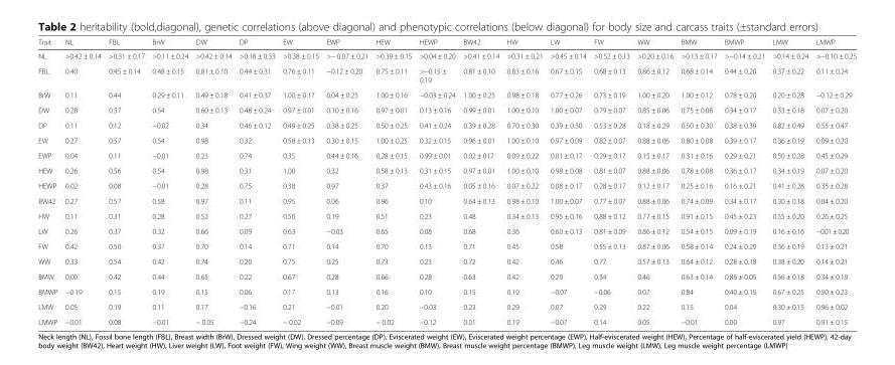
<table><thead><tr><td>Trait</td><td>NL</td><td>FBL</td><td>BrW</td><td>DW</td><td>DP</td><td>EW</td><td>EWP</td><td>HEW</td><td>HEWP</td><td>BW42</td><td>HW</td><td>LW</td><td>FW</td><td>WW</td><td>BMW</td><td>BMWP</td><td>LMW</td><td>LMWP</td></tr></thead><tbody><tr><td>NL</td><td>&gt;0.42 ± 0.14</td><td>&gt;0.31 ± 0.17</td><td>&gt;0.11 ± 0.24</td><td>&gt;0.42 ± 0.14</td><td>&gt;0.18 ± 0.33</td><td>&gt;0.38 ± 0.15</td><td>&gt;− 0.07 ± 0.21</td><td>&gt;0.39 ± 0.15</td><td>&gt;0.04 ± 0.20</td><td>&gt;0.41 ± 0.14</td><td>&gt;0.31 ± 0.21</td><td>&gt;0.45 ± 0.14</td><td>&gt;0.52 ± 0.13</td><td>&gt;0.20 ± 0.16</td><td>&gt;0.13 ± 0.17</td><td>&gt;−0.14 ± 0.21</td><td>&gt;0.14 ± 0.24</td><td>&gt;−0.10 ± 0.25</td></tr><tr><td>FBL</td><td>0.40</td><td>0.45 ± 0.14</td><td>0.48 ± 0.15</td><td>0.81 ± 0.10</td><td>0.44 ± 0.31</td><td>0.76 ± 0.11</td><td>−0.12 ± 0.20</td><td>0.75 ± 0.11</td><td>&gt;−0.15 ± 0.19</td><td>0.81 ± 0.10</td><td>0.83 ± 0.16</td><td>0.67 ± 0.15</td><td>0.68 ± 0.13</td><td>0.86 ± 0.12</td><td>0.68 ± 0.14</td><td>0.44 ± 0.20</td><td>0.37 ± 0.22</td><td>0.11 ± 0.24</td></tr><tr><td>BrW</td><td>0.11</td><td>0.44</td><td>0.29 ± 0.11</td><td>0.49 ± 0.18</td><td>0.41 ± 0.37</td><td>1.00 ± 0.17</td><td>0.04 ± 0.25</td><td>1.00 ± 0.16</td><td>−0.03 ± 0.24</td><td>1.00 ± 0.25</td><td>0.98 ± 0.18</td><td>0.77 ± 0.26</td><td>0.73 ± 0.19</td><td>1.00 ± 0.20</td><td>1.00 ± 0.12</td><td>0.78 ± 0.20</td><td>0.20 ± 0.28</td><td>−0.12 ± 0.29</td></tr><tr><td>DW</td><td>0.28</td><td>0.57</td><td>0.54</td><td>0.60 ± 0.13</td><td>0.48 ± 0.24</td><td>0.97 ± 0.01</td><td>0.10 ± 0.16</td><td>0.97 ± 0.01</td><td>0.13 ± 0.16</td><td>0.99 ± 0.01</td><td>1.00 ± 0.10</td><td>1.00 ± 0.07</td><td>0.79 ± 0.07</td><td>0.85 ± 0.06</td><td>0.75 ± 0.08</td><td>0.34 ± 0.17</td><td>0.33 ± 0.18</td><td>0.07 ± 0.20</td></tr><tr><td>DP</td><td>0.11</td><td>0.12</td><td>−0.02</td><td>0.34</td><td>0.46 ± 0.12</td><td>0.49 ± 0.25</td><td>0.38 ± 0.25</td><td>0.50 ± 0.25</td><td>0.41 ± 0.24</td><td>0.39 ± 0.28</td><td>0.70 ± 0.30</td><td>0.39 ± 0.30</td><td>0.53 ± 0.28</td><td>0.18 ± 0.29</td><td>0.50 ± 0.30</td><td>0.38 ± 0.39</td><td>0.82 ± 0.49</td><td>0.55 ± 0.47</td></tr><tr><td>EW</td><td>0.27</td><td>0.57</td><td>0.54</td><td>0.98</td><td>0.32</td><td>0.58 ± 0.13</td><td>0.30 ± 0.15</td><td>1.00 ± 0.25</td><td>0.32 ± 0.15</td><td>0.96 ± 0.01</td><td>1.00 ± 0.10</td><td>0.97 ± 0.09</td><td>0.82 ± 0.07</td><td>0.88 ± 0.06</td><td>0.80 ± 0.08</td><td>0.39 ± 0.17</td><td>0.36 ± 0.19</td><td>0.09 ± 0.20</td></tr><tr><td>EWP</td><td>0.04</td><td>0.11</td><td>−0.01</td><td>0.23</td><td>0.74</td><td>0.35</td><td>0.44 ± 0.16</td><td>0.28 ± 0.15</td><td>0.99 ± 0.01</td><td>0.02 ± 017</td><td>0.09 ± 0.22</td><td>0.01 ± 0.17</td><td>0.29 ± 0.17</td><td>0.15 ± 0.17</td><td>0.31 ± 0.16</td><td>0.29 ± 0.21</td><td>0.50 ± 0.28</td><td>0.45 ± 0.29</td></tr><tr><td>HEW</td><td>0.26</td><td>0.56</td><td>0.54</td><td>0.98</td><td>0.31</td><td>1.00</td><td>0.32</td><td>0.58 ± 0.13</td><td>0.31 ± 0.15</td><td>0.97 ± 0.01</td><td>1.00 ± 0.10</td><td>0.98 ± 0.08</td><td>0.81 ± 0.07</td><td>0.88 ± 0.06</td><td>0.78 ± 0.08</td><td>0.36 ± 0.17</td><td>0.34 ± 0.19</td><td>0.07 ± 0.20</td></tr><tr><td>HEWP</td><td>0.02</td><td>0.08</td><td>−0.01</td><td>0.28</td><td>0.75</td><td>0.38</td><td>0.97</td><td>0.37</td><td>0.43 ± 0.16</td><td>0.05 ± 0.16</td><td>0.07 ± 0.22</td><td>0.08 ± 0.17</td><td>0.28 ± 0.17</td><td>0.12 ± 0.17</td><td>0.25 ± 0.16</td><td>0.16 ± 0.21</td><td>0.41 ± 0.28</td><td>0.35 ± 0.28</td></tr><tr><td>BW42</td><td>0.27</td><td>0.57</td><td>0.58</td><td>0.97</td><td>0.11</td><td>0.95</td><td>0.06</td><td>0.96</td><td>0.10</td><td>0.64 ± 0.13</td><td>0.98 ± 0.10</td><td>1.00 ± 0.07</td><td>0.77 ± 0.07</td><td>0.88 ± 0.06</td><td>0.74 ± 0.09</td><td>0.34 ± 0.17</td><td>0.30 ± 0.18</td><td>0.04 ± 0.20</td></tr><tr><td>HW</td><td>0.11</td><td>0.31</td><td>0.28</td><td>0.52</td><td>0.27</td><td>0.50</td><td>0.19</td><td>0.51</td><td>0.23</td><td>0.48</td><td>0.34 ± 0.13</td><td>0.95 ± 0.16</td><td>0.88 ± 0.12</td><td>0.77 ± 0.15</td><td>0.91 ± 0.15</td><td>0.45 ± 0.23</td><td>0.55 ± 0.20</td><td>0.26 ± 0.25</td></tr><tr><td>LW</td><td>0.26</td><td>0.37</td><td>0.32</td><td>0.66</td><td>0.09</td><td>0.63</td><td>−0.03</td><td>0.65</td><td>0.08</td><td>0.68</td><td>0.36</td><td>0.60 ± 0.13</td><td>0.81 ± 0.09</td><td>0.86 ± 0.12</td><td>0.54 ± 0.15</td><td>0.09 ± 0.19</td><td>0.16 ± 0.16</td><td>−0.01±0.20</td></tr><tr><td>FW</td><td>0.42</td><td>0.50</td><td>0.37</td><td>0.70</td><td>0.14</td><td>0.71</td><td>0.14</td><td>0.70</td><td>0.13</td><td>0.71</td><td>0.45</td><td>0.58</td><td>0.55 ± 0.13</td><td>0.87 ± 0.06</td><td>0.58 ± 0.14</td><td>0.24 ± 0.20</td><td>0.36 ± 0.19</td><td>0.13 ± 0.21</td></tr><tr><td>WW</td><td>0.33</td><td>0.54</td><td>0.42</td><td>0.74</td><td>0.20</td><td>0.75</td><td>0.25</td><td>0.73</td><td>0.23</td><td>0.72</td><td>0.42</td><td>0.46</td><td>0.77</td><td>0.57 ± 0.13</td><td>0.64 ± 0.12</td><td>0.28 ± 0.18</td><td>0.38 ± 0.20</td><td>0.14 ± 0.21</td></tr><tr><td>BMW</td><td>0.00</td><td>0.42</td><td>0.44</td><td>0.65</td><td>0.22</td><td>0.67</td><td>0.28</td><td>0.66</td><td>0.28</td><td>0.63</td><td>0.42</td><td>0.29</td><td>0.34</td><td>0.46</td><td>0.63 ± 0.14</td><td>0.86 ± 0.05</td><td>0.56 ± 0.18</td><td>0.34 ± 0.19</td></tr><tr><td>BMWP</td><td>−0.19</td><td>0.15</td><td>0.19</td><td>0.15</td><td>0.06</td><td>0.17</td><td>0.13</td><td>0.16</td><td>0.10</td><td>0.15</td><td>0.19</td><td>−0.07</td><td>−0.06</td><td>0.07</td><td>0.84</td><td>0.40 ± 0.15</td><td>0.67 ± 0.25</td><td>0.50 ± 0.23</td></tr><tr><td>LMW</td><td>0.05</td><td>0.19</td><td>0.11</td><td>0.17</td><td>−0.16</td><td>0.21</td><td>−0.01</td><td>0.20</td><td>−0.03</td><td>0.23</td><td>0.29</td><td>0.07</td><td>0.29</td><td>0.22</td><td>0.15</td><td>0.04</td><td>0.30 ± 0.15</td><td>0.96 ± 0.02</td></tr><tr><td>LMWP</td><td>−0.01</td><td>0.08</td><td>−0.01</td><td>− 0.05</td><td>−0.24</td><td>− 0.02</td><td>−0.09</td><td>− 0.02</td><td>−0.12</td><td>0.01</td><td>0.19</td><td>−0.07</td><td>0.14</td><td>0.05</td><td>−0.01</td><td>0.00</td><td>0.97</td><td>0.91 ± 0.15</td></tr></tbody></table>